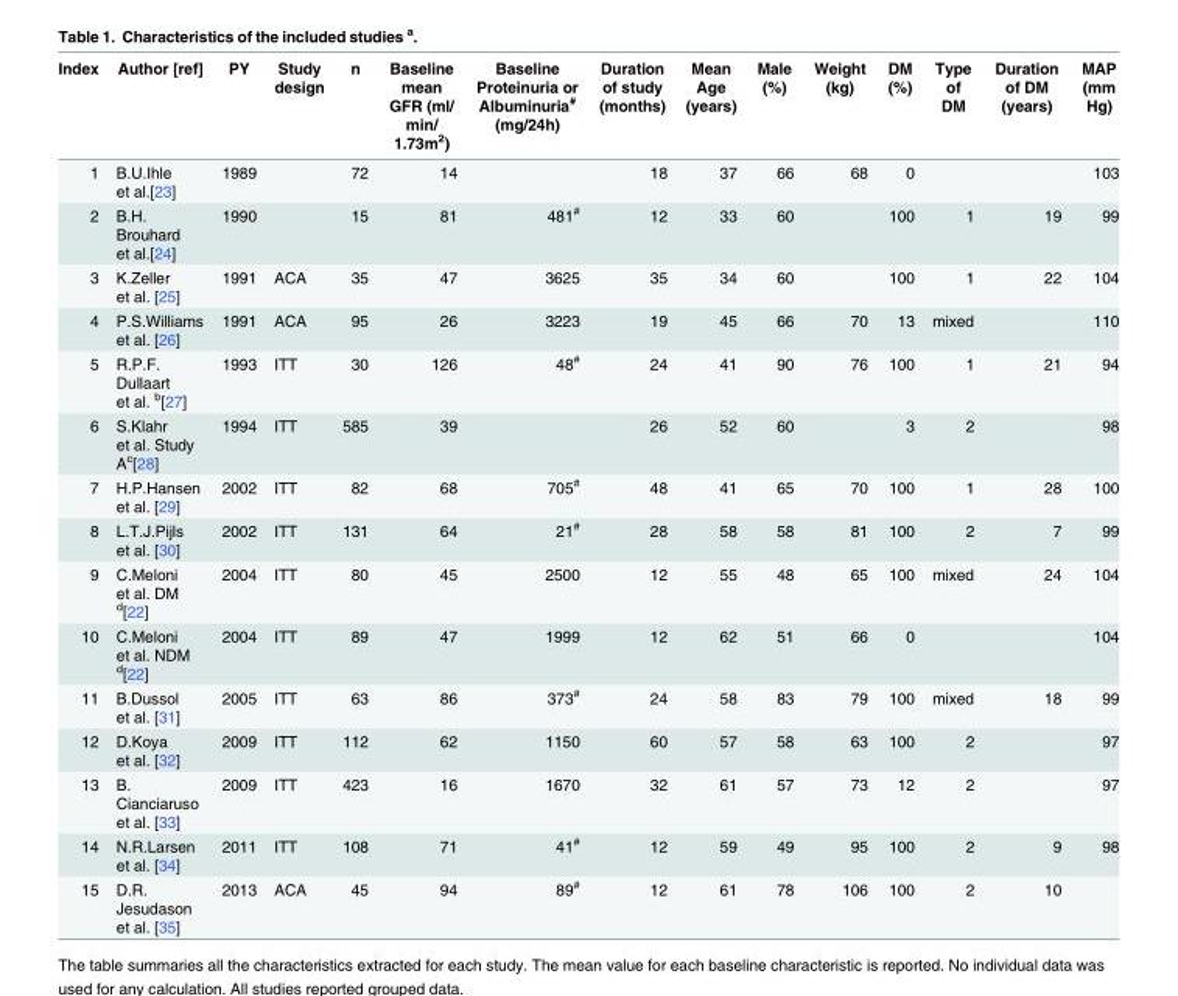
<table><thead><tr><td>Index</td><td>Author [ref]</td><td>PY</td><td>Study design</td><td>n</td><td>Baseline mean GFR (ml/ min/ 1.73m<sup>2</sup>)</td><td>Baseline Proteinuria or Albuminuria<sup>#</sup> (mg/24h)</td><td>Duration of study (months)</td><td>Mean Age (years)</td><td>Male (%)</td><td>Weight (kg)</td><td>DM (%)</td><td>Type of DM</td><td>Duration of DM (years)</td><td>MAP (mm Hg)</td></tr></thead><tbody><tr><td>1</td><td>B.U.Ihle et al.[23]</td><td>1989</td><td></td><td>72</td><td>14</td><td></td><td>18</td><td>37</td><td>66</td><td>68</td><td>0</td><td></td><td></td><td>103</td></tr><tr><td>2</td><td>B.H. Brouhard et al.[24]</td><td>1990</td><td></td><td>15</td><td>81</td><td>481<sup>#</sup></td><td>12</td><td>33</td><td>60</td><td></td><td>100</td><td>1</td><td>19</td><td>99</td></tr><tr><td>3</td><td>K.Zeller et al. [25]</td><td>1991</td><td>ACA</td><td>35</td><td>47</td><td>3625</td><td>35</td><td>34</td><td>60</td><td></td><td>100</td><td>1</td><td>22</td><td>104</td></tr><tr><td>4</td><td>P.S.Williams et al. [26]</td><td>1991</td><td>ACA</td><td>95</td><td>26</td><td>3223</td><td>19</td><td>45</td><td>66</td><td>70</td><td>13</td><td>mixed</td><td></td><td>110</td></tr><tr><td>5</td><td>R.P.F. Dullaart et al. <sup>b</sup>[27]</td><td>1993</td><td>ITT</td><td>30</td><td>126</td><td>48<sup>#</sup></td><td>24</td><td>41</td><td>90</td><td>76</td><td>100</td><td>1</td><td>21</td><td>94</td></tr><tr><td>6</td><td>S.Klahr et al. Study A<sup>c</sup>[28]</td><td>1994</td><td>ITT</td><td>585</td><td>39</td><td></td><td>26</td><td>52</td><td>60</td><td></td><td>3</td><td>2</td><td></td><td>98</td></tr><tr><td>7</td><td>H.P.Hansen et al. [29]</td><td>2002</td><td>ITT</td><td>82</td><td>68</td><td>705<sup>#</sup></td><td>48</td><td>41</td><td>65</td><td>70</td><td>100</td><td>1</td><td>28</td><td>100</td></tr><tr><td>8</td><td>L.T.J.Pijls et al. [30]</td><td>2002</td><td>ITT</td><td>131</td><td>64</td><td>21<sup>#</sup></td><td>28</td><td>58</td><td>58</td><td>81</td><td>100</td><td>2</td><td>7</td><td>99</td></tr><tr><td>9</td><td>C.Meloni et al. DM <sup>d</sup>[22]</td><td>2004</td><td>ITT</td><td>80</td><td>45</td><td>2500</td><td>12</td><td>55</td><td>48</td><td>65</td><td>100</td><td>mixed</td><td>24</td><td>104</td></tr><tr><td>10</td><td>C.Meloni et al. NDM <sup>d</sup>[22]</td><td>2004</td><td>ITT</td><td>89</td><td>47</td><td>1999</td><td>12</td><td>62</td><td>51</td><td>66</td><td>0</td><td></td><td></td><td>104</td></tr><tr><td>11</td><td>B.Dussol et al. [31]</td><td>2005</td><td>ITT</td><td>63</td><td>86</td><td>373<sup>#</sup></td><td>24</td><td>58</td><td>83</td><td>79</td><td>100</td><td>mixed</td><td>18</td><td>99</td></tr><tr><td>12</td><td>D.Koya et al. [32]</td><td>2009</td><td>ITT</td><td>112</td><td>62</td><td>1150</td><td>60</td><td>57</td><td>58</td><td>63</td><td>100</td><td>2</td><td></td><td>97</td></tr><tr><td>13</td><td>B. Cianciaruso et al. [33]</td><td>2009</td><td>ITT</td><td>423</td><td>16</td><td>1670</td><td>32</td><td>61</td><td>57</td><td>73</td><td>12</td><td>2</td><td></td><td>97</td></tr><tr><td>14</td><td>N.R.Larsen et al. [34]</td><td>2011</td><td>ITT</td><td>108</td><td>71</td><td>41<sup>#</sup></td><td>12</td><td>59</td><td>49</td><td>95</td><td>100</td><td>2</td><td>9</td><td>98</td></tr><tr><td>15</td><td>D.R. Jesudason et al. [35]</td><td>2013</td><td>ACA</td><td>45</td><td>94</td><td>89<sup>#</sup></td><td>12</td><td>61</td><td>78</td><td>106</td><td>100</td><td>2</td><td>10</td><td></td></tr></tbody></table>